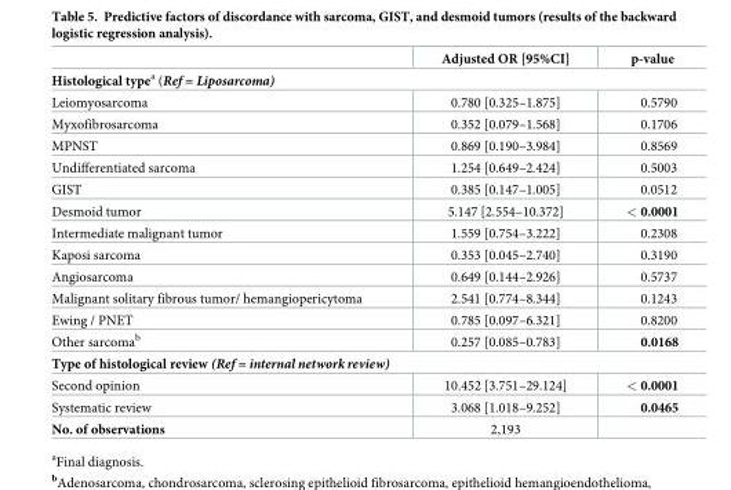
<table><thead><tr><td></td><td>Adjusted OR [95%CI]</td><td>p-value</td></tr></thead><tbody><tr><td colspan="3">Histological type<sup>a</sup> (Ref = Liposarcoma)</td></tr><tr><td>Leiomyosarcoma</td><td>0.780 [0.325–1.875]</td><td>0.5790</td></tr><tr><td>Myxofibrosarcoma</td><td>0.352 [0.079–1.568]</td><td>0.1706</td></tr><tr><td>MPNST</td><td>0.869 [0.190–3.984]</td><td>0.8569</td></tr><tr><td>Undifferentiated sarcoma</td><td>1.254 [0.649–2.424]</td><td>0.5003</td></tr><tr><td>GIST</td><td>0.385 [0.147–1.005]</td><td>0.0512</td></tr><tr><td>Desmoid tumor</td><td>5.147 [2.554–10.372]</td><td>&lt; 0.0001</td></tr><tr><td>Intermediate malignant tumor</td><td>1.559 [0.754–3.222]</td><td>0.2308</td></tr><tr><td>Kaposi sarcoma</td><td>0.353 [0.045–2.740]</td><td>0.3190</td></tr><tr><td>Angiosarcoma</td><td>0.649 [0.144–2.926]</td><td>0.5737</td></tr><tr><td>Malignant solitary fibrous tumor/ hemangiopericytoma</td><td>2.541 [0.774–8.344]</td><td>0.1243</td></tr><tr><td>Ewing / PNET</td><td>0.785 [0.097–6.321]</td><td>0.8200</td></tr><tr><td>Other sarcoma<sup>b</sup></td><td>0.257 [0.085–0.783]</td><td>0.0168</td></tr><tr><td colspan="3">Type of histological review (Ref = internal network review)</td></tr><tr><td>Second opinion</td><td>10.452 [3.751–29.124]</td><td>&lt; 0.0001</td></tr><tr><td>Systematic review</td><td>3.068 [1.018–9.252]</td><td>0.0465</td></tr><tr><td>No. of observations</td><td>2,193</td><td></td></tr></tbody></table>